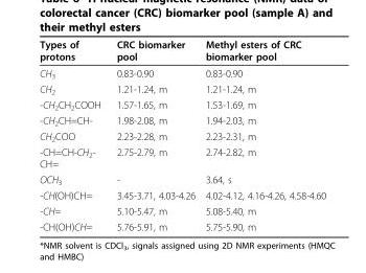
<table><thead><tr><td>Types of protons</td><td>CRC biomarker pool</td><td>Methyl esters of CRC biomarker pool</td></tr></thead><tbody><tr><td>CH<sub>3</sub></td><td>0.83-0.90</td><td>0.83-0.90</td></tr><tr><td>CH<sub>2</sub></td><td>1.21-1.24, m</td><td>1.21-1.24, m</td></tr><tr><td>-CH<sub>2</sub>CH<sub>2</sub>COOH</td><td>1.57-1.65, m</td><td>1.53-1.69, m</td></tr><tr><td>-CH<sub>2</sub>CH=CH-</td><td>1.98-2.08, m</td><td>1.94-2.03, m</td></tr><tr><td>CH<sub>2</sub>COO</td><td>2.23-2.28, m</td><td>2.23-2.31, m</td></tr><tr><td>-CH=CH-CH<sub>2</sub>- CH=</td><td>2.75-2.79, m</td><td>2.74-2.82, m</td></tr><tr><td>OCH<sub>3</sub></td><td>-</td><td>3.64, s</td></tr><tr><td>-CH(OH)CH=</td><td>3.45-3.71, 4.03-4.26</td><td>4.02-4.12, 4.16-4.26, 4.58-4.60</td></tr><tr><td>-CH=</td><td>5.10-5.47, m</td><td>5.08-5.40, m</td></tr><tr><td>-CH(OH)CH=</td><td>5.76-5.91, m</td><td>5.75-5.90, m</td></tr></tbody></table>